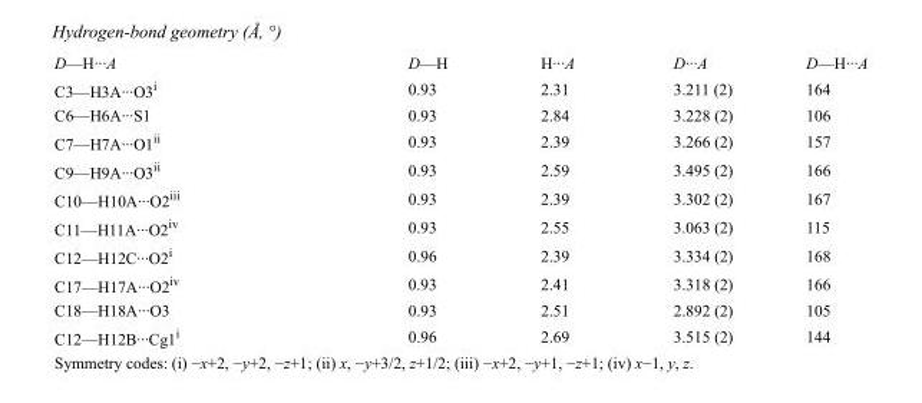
<table><tbody><tr><td>D—H···A</td><td>D—H</td><td>H···A</td><td>D···A</td><td>D—H···A</td></tr><tr><td>C3—H3A···O3<sup>i</sup></td><td>0.93</td><td>2.31</td><td>3.211 (2)</td><td>164</td></tr><tr><td>C6—H6A···S1</td><td>0.93</td><td>2.84</td><td>3.228 (2)</td><td>106</td></tr><tr><td>C7—H7A···O1<sup>ii</sup></td><td>0.93</td><td>2.39</td><td>3.266 (2)</td><td>157</td></tr><tr><td>C9—H9A···O3<sup>ii</sup></td><td>0.93</td><td>2.59</td><td>3.495 (2)</td><td>166</td></tr><tr><td>C10—H10A···O2<sup>iii</sup></td><td>0.93</td><td>2.39</td><td>3.302 (2)</td><td>167</td></tr><tr><td>C11—H11A···O2<sup>iv</sup></td><td>0.93</td><td>2.55</td><td>3.063 (2)</td><td>115</td></tr><tr><td>C12—H12C···O2<sup>i</sup></td><td>0.96</td><td>2.39</td><td>3.334 (2)</td><td>168</td></tr><tr><td>C17—H17A···O2<sup>iv</sup></td><td>0.93</td><td>2.41</td><td>3.318 (2)</td><td>166</td></tr><tr><td>C18—H18A···O3</td><td>0.93</td><td>2.51</td><td>2.892 (2)</td><td>105</td></tr><tr><td>C12—H12B···Cg1<sup>i</sup></td><td>0.96</td><td>2.69</td><td>3.515 (2)</td><td>144</td></tr></tbody></table>